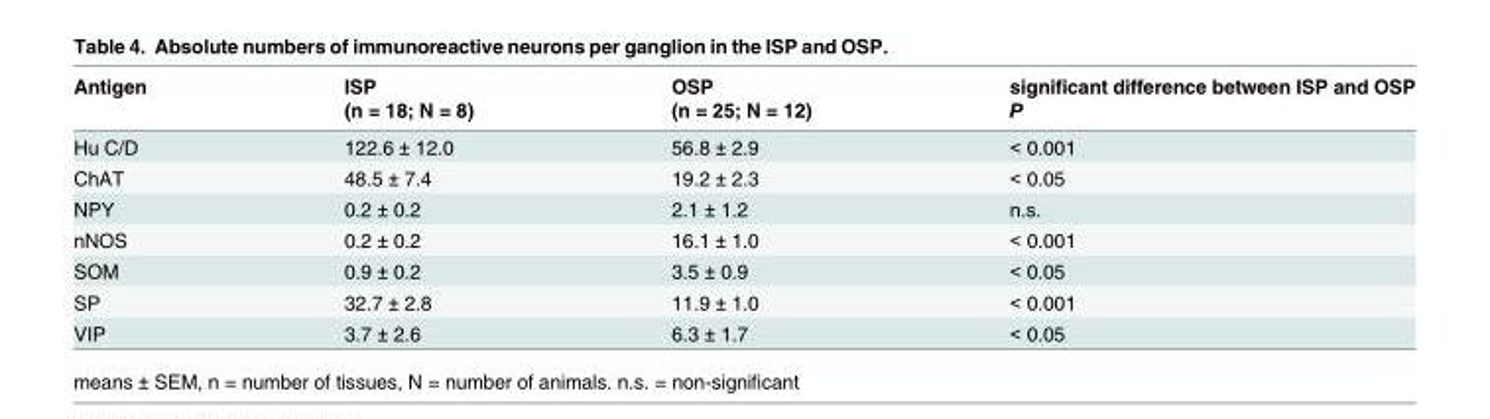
<table><thead><tr><td rowspan="2">Antigen</td><td rowspan="2">ISP (n = 18; N = 8)</td><td rowspan="2">OSP (n = 25; N = 12)</td><td rowspan="2">significant difference between ISP and OSP P</td></tr><tr></tr></thead><tbody><tr><td>Hu C/D</td><td>122.6 ± 12.0</td><td>56.8 ± 2.9</td><td>&lt; 0.001</td></tr><tr><td>ChAT</td><td>48.5 ± 7.4</td><td>19.2 ± 2.3</td><td>&lt; 0.05</td></tr><tr><td>NPY</td><td>0.2 ± 0.2</td><td>2.1 ± 1.2</td><td>n.s.</td></tr><tr><td>nNOS</td><td>0.2 ± 0.2</td><td>16.1 ± 1.0</td><td>&lt; 0.001</td></tr><tr><td>SOM</td><td>0.9 ± 0.2</td><td>3.5 ± 0.9</td><td>&lt; 0.05</td></tr><tr><td>SP</td><td>32.7 ± 2.8</td><td>11.9 ± 1.0</td><td>&lt; 0.001</td></tr><tr><td>VIP</td><td>3.7 ± 2.6</td><td>6.3 ± 1.7</td><td>&lt; 0.05</td></tr></tbody></table>